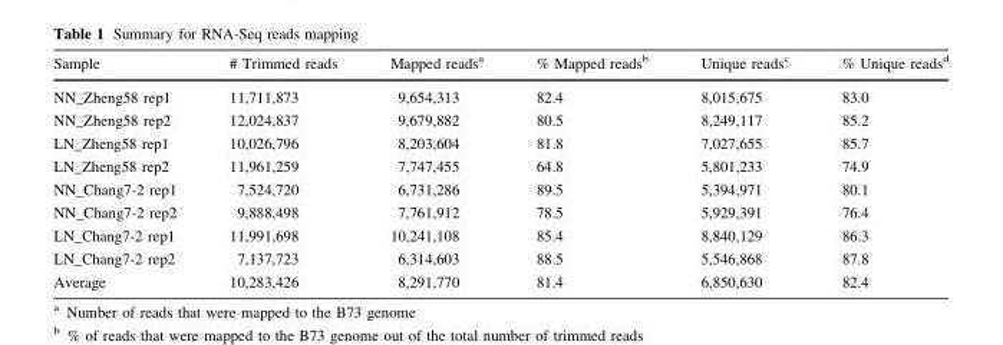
<table><thead><tr><td>Sample</td><td># Trimmed reads</td><td>Mapped reads<sup>a</sup></td><td>% Mapped reads<sup>b</sup></td><td>Unique reads<sup>c</sup></td><td>% Unique reads<sup>d</sup></td></tr></thead><tbody><tr><td>NN_Zheng58 rep1</td><td>11,711,873</td><td>9,654,313</td><td>82.4</td><td>8,015,675</td><td>83.0</td></tr><tr><td>NN_Zheng58 rep2</td><td>12,024,837</td><td>9,679,882</td><td>80.5</td><td>8,249,117</td><td>85.2</td></tr><tr><td>LN_Zheng58 rep1</td><td>10,026,796</td><td>8,203,604</td><td>81.8</td><td>7,027,655</td><td>85.7</td></tr><tr><td>LN_Zheng58 rep2</td><td>11,961,259</td><td>7,747,455</td><td>64.8</td><td>5,801,233</td><td>74.9</td></tr><tr><td>NN_Chang7-2 rep1</td><td>7,524,720</td><td>6,731,286</td><td>89.5</td><td>5,394,971</td><td>80.1</td></tr><tr><td>NN_Chang7-2 rep2</td><td>9,888,498</td><td>7,761,912</td><td>78.5</td><td>5,929,391</td><td>76.4</td></tr><tr><td>LN_Chang7-2 rep1</td><td>11,991,698</td><td>10,241,108</td><td>85.4</td><td>8,840,129</td><td>86.3</td></tr><tr><td>LN_Chang7-2 rep2</td><td>7,137,723</td><td>6,314,603</td><td>88.5</td><td>5,546,868</td><td>87.8</td></tr><tr><td>Average</td><td>10,283,426</td><td>8,291,770</td><td>81.4</td><td>6,850,630</td><td>82.4</td></tr></tbody></table>